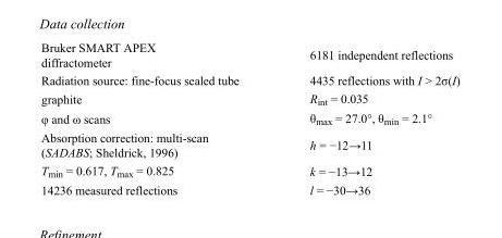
<table><tbody><tr><td>Bruker SMART APEX diffractometer</td><td>6181 independent reflections</td></tr><tr><td>Radiation source: fine-focus sealed tube</td><td>4435 reflections with I &gt; 2σ(I)</td></tr><tr><td>graphite</td><td>R<sub>int</sub> = 0.035</td></tr><tr><td>φ and ω scans</td><td>θ<sub>max</sub> = 27.0°, θ<sub>min</sub> = 2.1°</td></tr><tr><td>Absorption correction: multi-scan (SADABS; Sheldrick, 1996)</td><td>h = −12→11</td></tr><tr><td>T<sub>min</sub> = 0.617, T<sub>max</sub> = 0.825</td><td>k = −13→12</td></tr><tr><td>14236 measured reflections</td><td>l = −30→36</td></tr></tbody></table>